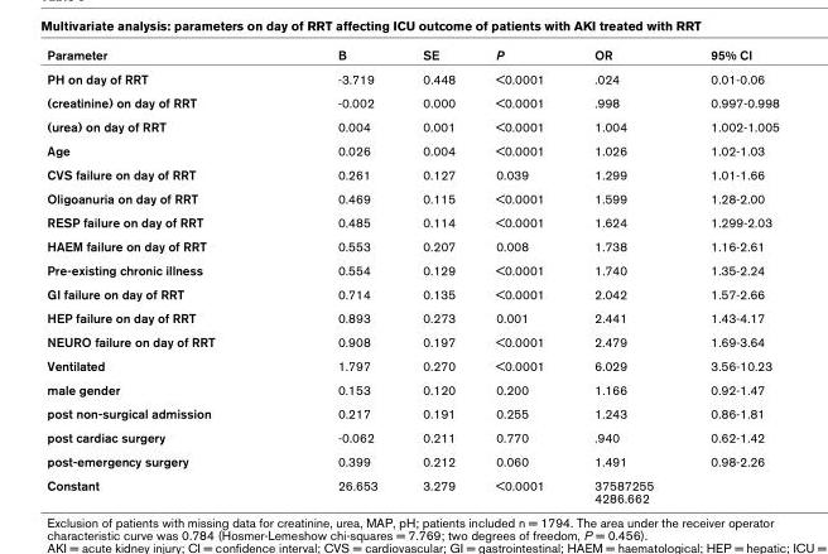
<table><thead><tr><td>Parameter</td><td>B</td><td>SE</td><td>P</td><td>OR</td><td>95% CI</td></tr></thead><tbody><tr><td>PH on day of RRT</td><td>-3.719</td><td>0.448</td><td>&lt;0.0001</td><td>.024</td><td>0.01-0.06</td></tr><tr><td>(creatinine) on day of RRT</td><td>-0.002</td><td>0.000</td><td>&lt;0.0001</td><td>.998</td><td>0.997-0.998</td></tr><tr><td>(urea) on day of RRT</td><td>0.004</td><td>0.001</td><td>&lt;0.0001</td><td>1.004</td><td>1.002-1.005</td></tr><tr><td>Age</td><td>0.026</td><td>0.004</td><td>&lt;0.0001</td><td>1.026</td><td>1.02-1.03</td></tr><tr><td>CVS failure on day of RRT</td><td>0.261</td><td>0.127</td><td>0.039</td><td>1.299</td><td>1.01-1.66</td></tr><tr><td>Oligoanuria on day of RRT</td><td>0.469</td><td>0.115</td><td>&lt;0.0001</td><td>1.599</td><td>1.28-2.00</td></tr><tr><td>RESP failure on day of RRT</td><td>0.485</td><td>0.114</td><td>&lt;0.0001</td><td>1.624</td><td>1.299-2.03</td></tr><tr><td>HAEM failure on day of RRT</td><td>0.553</td><td>0.207</td><td>0.008</td><td>1.738</td><td>1.16-2.61</td></tr><tr><td>Pre-existing chronic illness</td><td>0.554</td><td>0.129</td><td>&lt;0.0001</td><td>1.740</td><td>1.35-2.24</td></tr><tr><td>GI failure on day of RRT</td><td>0.714</td><td>0.135</td><td>&lt;0.0001</td><td>2.042</td><td>1.57-2.66</td></tr><tr><td>HEP failure on day of RRT</td><td>0.893</td><td>0.273</td><td>0.001</td><td>2.441</td><td>1.43-4.17</td></tr><tr><td>NEURO failure on day of RRT</td><td>0.908</td><td>0.197</td><td>&lt;0.0001</td><td>2.479</td><td>1.69-3.64</td></tr><tr><td>Ventilated</td><td>1.797</td><td>0.270</td><td>&lt;0.0001</td><td>6.029</td><td>3.56-10.23</td></tr><tr><td>male gender</td><td>0.153</td><td>0.120</td><td>0.200</td><td>1.166</td><td>0.92-1.47</td></tr><tr><td>post non-surgical admission</td><td>0.217</td><td>0.191</td><td>0.255</td><td>1.243</td><td>0.86-1.81</td></tr><tr><td>post cardiac surgery</td><td>-0.062</td><td>0.211</td><td>0.770</td><td>.940</td><td>0.62-1.42</td></tr><tr><td>post-emergency surgery</td><td>0.399</td><td>0.212</td><td>0.060</td><td>1.491</td><td>0.98-2.26</td></tr><tr><td>Constant</td><td>26.653</td><td>3.279</td><td>&lt;0.0001</td><td>37587255 4286.662</td><td></td></tr></tbody></table>